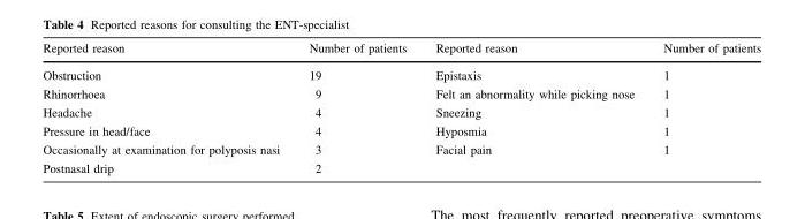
<table><thead><tr><td>Reported reason</td><td>Number of patients</td><td>Reported reason</td><td>Number of patients</td></tr></thead><tbody><tr><td>Obstruction</td><td>19</td><td>Epistaxis</td><td>1</td></tr><tr><td>Rhinorrhoea</td><td>9</td><td>Felt an abnormality while picking nose</td><td>1</td></tr><tr><td>Headache</td><td>4</td><td>Sneezing</td><td>1</td></tr><tr><td>Pressure in head/face</td><td>4</td><td>Hyposmia</td><td>1</td></tr><tr><td>Occasionally at examination for polyposis nasi</td><td>3</td><td>Facial pain</td><td>1</td></tr><tr><td>Postnasal drip</td><td>2</td><td></td><td></td></tr></tbody></table>